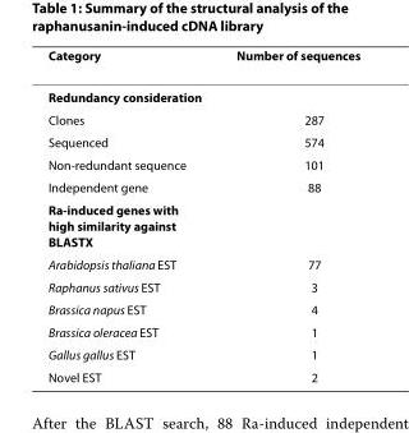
<table><thead><tr><td>Category</td><td>Number of sequences</td></tr></thead><tbody><tr><td colspan="2">Redundancy consideration</td></tr><tr><td>Clones</td><td>287</td></tr><tr><td>Sequenced</td><td>574</td></tr><tr><td>Non-redundant sequence</td><td>101</td></tr><tr><td>Independent gene</td><td>88</td></tr><tr><td colspan="2">Ra-induced genes with high similarity against BLASTX</td></tr><tr><td>Arabidopsis thaliana EST</td><td>77</td></tr><tr><td>Raphanus sativus EST</td><td>3</td></tr><tr><td>Brassica napus EST</td><td>4</td></tr><tr><td>Brassica oleracea EST</td><td>1</td></tr><tr><td>Gallus gallus EST</td><td>1</td></tr><tr><td>Novel EST</td><td>2</td></tr></tbody></table>